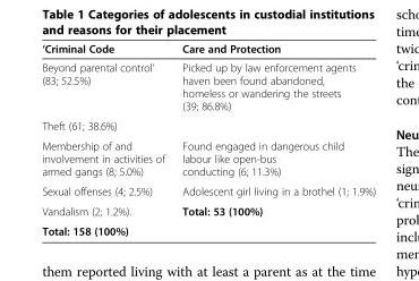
<table><thead><tr><td>‘Criminal Code</td><td>Care and Protection</td></tr></thead><tbody><tr><td>Beyond parental control’ (83; 52.5%)</td><td>Picked up by law enforcement agents haven been found abandoned, homeless or wandering the streets (39; 86.8%)</td></tr><tr><td colspan="2">Theft (61; 38.6%)</td></tr><tr><td>Membership of and involvement in activities of armed gangs (8; 5.0%)</td><td>Found engaged in dangerous child labour like open-bus conducting (6; 11.3%)</td></tr><tr><td>Sexual offenses (4; 2.5%)</td><td>Adolescent girl living in a brothel (1; 1.9%)</td></tr><tr><td>Vandalism (2; 1.2%).</td><td>Total: 53 (100%)</td></tr><tr><td>Total: 158 (100%)</td><td></td></tr></tbody></table>